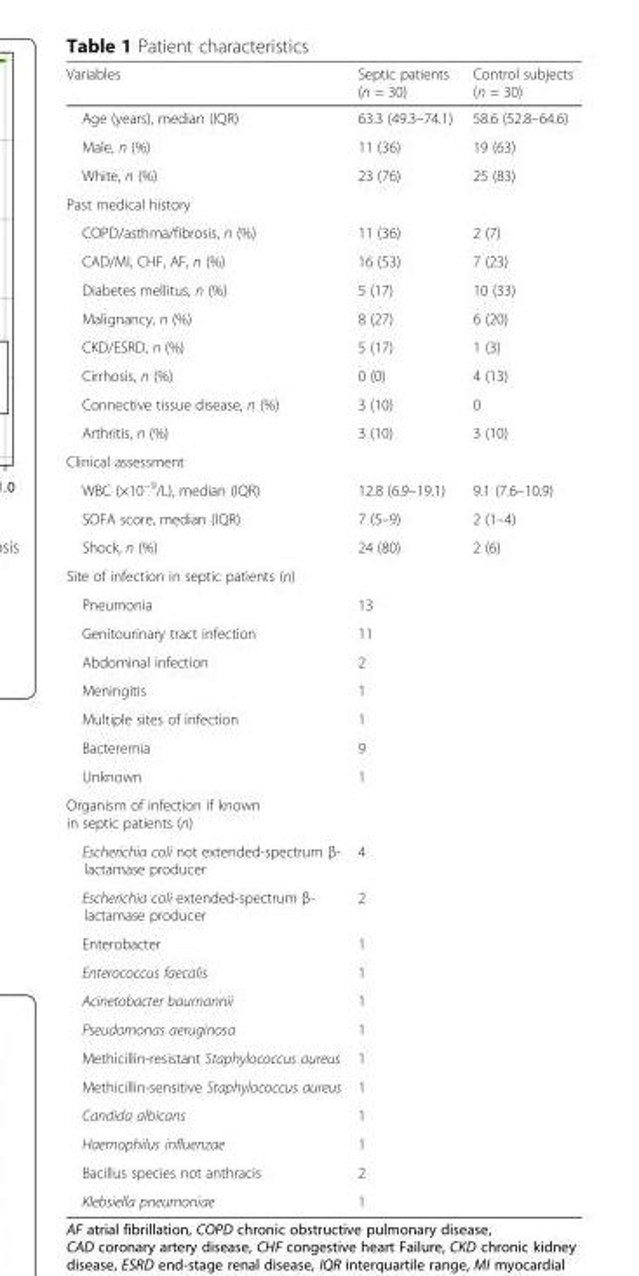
<table><thead><tr><td>Variables</td><td>Septic patients (n = 30)</td><td>Control subjects (n = 30)</td></tr></thead><tbody><tr><td>Age (years), median (IQR)</td><td>63.3 (49.3–74.1)</td><td>58.6 (52.8–64.6)</td></tr><tr><td>Male, n (%)</td><td>11 (36)</td><td>19 (63)</td></tr><tr><td>White, n (%)</td><td>23 (76)</td><td>25 (83)</td></tr><tr><td colspan="3">Past medical history</td></tr><tr><td>COPD/asthma/fibrosis, n (%)</td><td>11 (36)</td><td>2 (7)</td></tr><tr><td>CAD/MI, CHF, AF, n (%)</td><td>16 (53)</td><td>7 (23)</td></tr><tr><td>Diabetes mellitus, n (%)</td><td>5 (17)</td><td>10 (33)</td></tr><tr><td>Malignancy, n (%)</td><td>8 (27)</td><td>6 (20)</td></tr><tr><td>CKD/ESRD, n (%)</td><td>5 (17)</td><td>1 (3)</td></tr><tr><td>Cirrhosis, n (%)</td><td>0 (0)</td><td>4 (13)</td></tr><tr><td>Connective tissue disease, n (%)</td><td>3 (10)</td><td>0</td></tr><tr><td>Arthritis, n (%)</td><td>3 (10)</td><td>3 (10)</td></tr><tr><td colspan="3">Clinical assessment</td></tr><tr><td>WBC (×10<sup>−9</sup>/L), median (IQR)</td><td>12.8 (6.9–19.1)</td><td>9.1 (7.6–10.9)</td></tr><tr><td>SOFA score, median (IQR)</td><td>7 (5–9)</td><td>2 (1–4)</td></tr><tr><td>Shock, n (%)</td><td>24 (80)</td><td>2 (6)</td></tr><tr><td colspan="3">Site of infection in septic patients (n)</td></tr><tr><td>Pneumonia</td><td>13</td><td></td></tr><tr><td>Genitourinary tract infection</td><td>11</td><td></td></tr><tr><td>Abdominal infection</td><td>2</td><td></td></tr><tr><td>Meningitis</td><td>1</td><td></td></tr><tr><td>Multiple sites of infection</td><td>1</td><td></td></tr><tr><td>Bacteremia</td><td>9</td><td></td></tr><tr><td>Unknown</td><td>1</td><td></td></tr><tr><td colspan="3">Organism of infection if known in septic patients (n)</td></tr><tr><td>Escherichia coli not extended-spectrum β- lactamase producer</td><td>4</td><td></td></tr><tr><td>Escherichia coli extended-spectrum β- lactamase producer</td><td>2</td><td></td></tr><tr><td>Enterobacter</td><td>1</td><td></td></tr><tr><td>Enterococcus faecalis</td><td>1</td><td></td></tr><tr><td>Acinetobacter baumannii</td><td>1</td><td></td></tr><tr><td>Pseudomonas aeruginosa</td><td>1</td><td></td></tr><tr><td>Methicillin-resistant Staphylococcus aureus</td><td>1</td><td></td></tr><tr><td>Methicillin-sensitive Staphylococcus aureus</td><td>1</td><td></td></tr><tr><td>Candida albicans</td><td>1</td><td></td></tr><tr><td>Haemophilus influenzae</td><td>1</td><td></td></tr><tr><td>Bacillus species not anthracis</td><td>2</td><td></td></tr><tr><td>Klebsiella pneumoniae</td><td>1</td><td></td></tr></tbody></table>